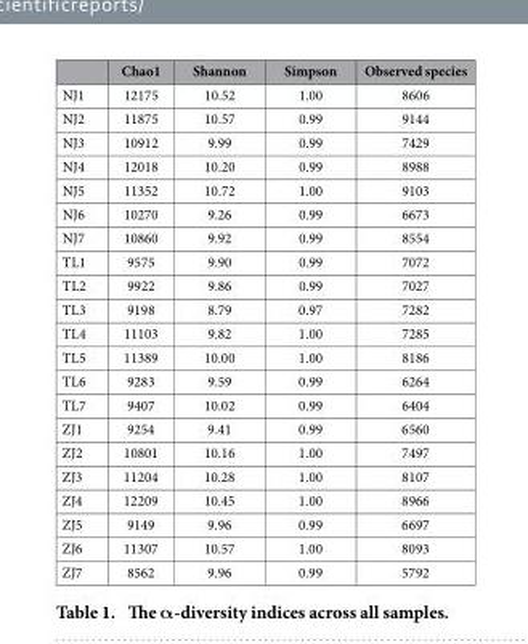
<table><thead><tr><td></td><td>Chao1</td><td>Shannon</td><td>Simpson</td><td>Observed species</td></tr></thead><tbody><tr><td>NJ1</td><td>12175</td><td>10.52</td><td>1.00</td><td>8606</td></tr><tr><td>NJ2</td><td>11875</td><td>10.57</td><td>0.99</td><td>9144</td></tr><tr><td>NJ3</td><td>10912</td><td>9.99</td><td>0.99</td><td>7429</td></tr><tr><td>NJ4</td><td>12018</td><td>10.20</td><td>0.99</td><td>8988</td></tr><tr><td>NJ5</td><td>11352</td><td>10.72</td><td>1.00</td><td>9103</td></tr><tr><td>NJ6</td><td>10270</td><td>9.26</td><td>0.99</td><td>6673</td></tr><tr><td>NJ7</td><td>10860</td><td>9.92</td><td>0.99</td><td>8554</td></tr><tr><td>TL1</td><td>9575</td><td>9.90</td><td>0.99</td><td>7072</td></tr><tr><td>TL2</td><td>9922</td><td>9.86</td><td>0.99</td><td>7027</td></tr><tr><td>TL3</td><td>9198</td><td>8.79</td><td>0.97</td><td>7282</td></tr><tr><td>TL4</td><td>11103</td><td>9.82</td><td>1.00</td><td>7285</td></tr><tr><td>TL5</td><td>11389</td><td>10.00</td><td>1.00</td><td>8186</td></tr><tr><td>TL6</td><td>9283</td><td>9.59</td><td>0.99</td><td>6264</td></tr><tr><td>TL7</td><td>9407</td><td>10.02</td><td>0.99</td><td>6404</td></tr><tr><td>ZJ1</td><td>9254</td><td>9.41</td><td>0.99</td><td>6560</td></tr><tr><td>ZJ2</td><td>10801</td><td>10.16</td><td>1.00</td><td>7497</td></tr><tr><td>ZJ3</td><td>11204</td><td>10.28</td><td>1.00</td><td>8107</td></tr><tr><td>ZJ4</td><td>12209</td><td>10.45</td><td>1.00</td><td>8966</td></tr><tr><td>ZJ5</td><td>9149</td><td>9.96</td><td>0.99</td><td>6697</td></tr><tr><td>ZJ6</td><td>11307</td><td>10.57</td><td>1.00</td><td>8093</td></tr><tr><td>ZJ7</td><td>8562</td><td>9.96</td><td>0.99</td><td>5792</td></tr></tbody></table>